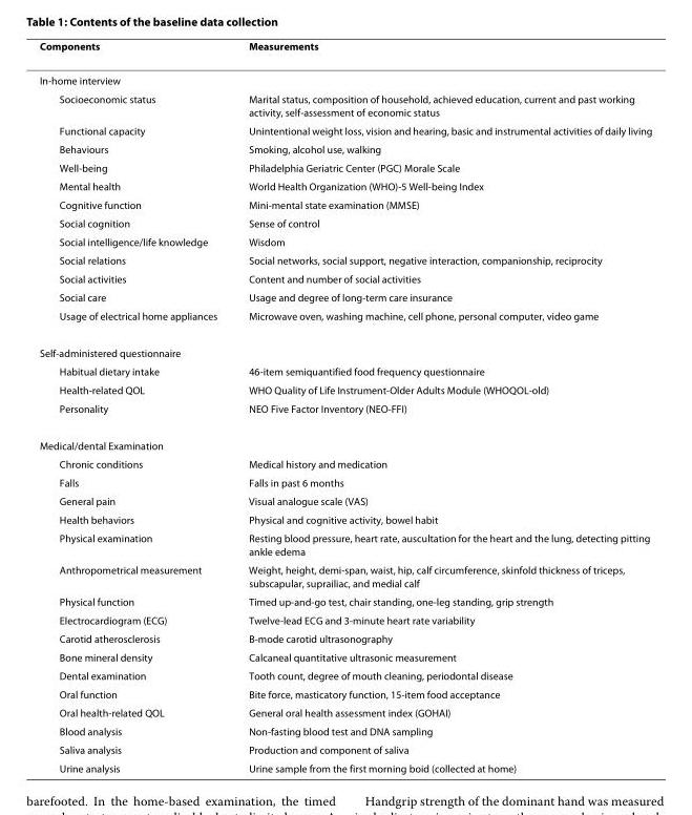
<table><thead><tr><td>Components</td><td>Measurements</td></tr></thead><tbody><tr><td colspan="2">In-home interview</td></tr><tr><td>Socioeconomic status</td><td>Marital status, composition of household, achieved education, current and past working activity, self-assessment of economic status</td></tr><tr><td>Functional capacity</td><td>Unintentional weight loss, vision and hearing, basic and instrumental activities of daily living</td></tr><tr><td>Behaviours</td><td>Smoking, alcohol use, walking</td></tr><tr><td>Well-being</td><td>Philadelphia Geriatric Center (PGC) Morale Scale</td></tr><tr><td>Mental health</td><td>World Health Organization (WHO)-5 Well-being Index</td></tr><tr><td>Cognitive function</td><td>Mini-mental state examination (MMSE)</td></tr><tr><td>Social cognition</td><td>Sense of control</td></tr><tr><td>Social intelligence/life knowledge</td><td>Wisdom</td></tr><tr><td>Social relations</td><td>Social networks, social support, negative interaction, companionship, reciprocity</td></tr><tr><td>Social activities</td><td>Content and number of social activities</td></tr><tr><td>Social care</td><td>Usage and degree of long-term care insurance</td></tr><tr><td>Usage of electrical home appliances</td><td>Microwave oven, washing machine, cell phone, personal computer, video game</td></tr><tr><td colspan="2">Self-administered questionnaire</td></tr><tr><td>Habitual dietary intake</td><td>46-item semiquantified food frequency questionnaire</td></tr><tr><td>Health-related QOL</td><td>WHO Quality of Life Instrument-Older Adults Module (WHOQOL-old)</td></tr><tr><td>Personality</td><td>NEO Five Factor Inventory (NEO-FFI)</td></tr><tr><td colspan="2">Medical/dental Examination</td></tr><tr><td>Chronic conditions</td><td>Medical history and medication</td></tr><tr><td>Falls</td><td>Falls in past 6 months</td></tr><tr><td>General pain</td><td>Visual analogue scale (VAS)</td></tr><tr><td>Health behaviors</td><td>Physical and cognitive activity, bowel habit</td></tr><tr><td>Physical examination</td><td>Resting blood pressure, heart rate, auscultation for the heart and the lung, detecting pitting ankle edema</td></tr><tr><td>Anthropometrical measurement</td><td>Weight, height, demi-span, waist, hip, calf circumference, skinfold thickness of triceps, subscapular, suprailiac, and medial calf</td></tr><tr><td>Physical function</td><td>Timed up-and-go test, chair standing, one-leg standing, grip strength</td></tr><tr><td>Electrocardiogram (ECG)</td><td>Twelve-lead ECG and 3-minute heart rate variability</td></tr><tr><td>Carotid atherosclerosis</td><td>B-mode carotid ultrasonography</td></tr><tr><td>Bone mineral density</td><td>Calcaneal quantitative ultrasonic measurement</td></tr><tr><td>Dental examination</td><td>Tooth count, degree of mouth cleaning, periodontal disease</td></tr><tr><td>Oral function</td><td>Bite force, masticatory function, 15-item food acceptance</td></tr><tr><td>Oral health-related QOL</td><td>General oral health assessment index (GOHAI)</td></tr><tr><td>Blood analysis</td><td>Non-fasting blood test and DNA sampling</td></tr><tr><td>Saliva analysis</td><td>Production and component of saliva</td></tr><tr><td>Urine analysis</td><td>Urine sample from the first morning boid (collected at home)</td></tr></tbody></table>